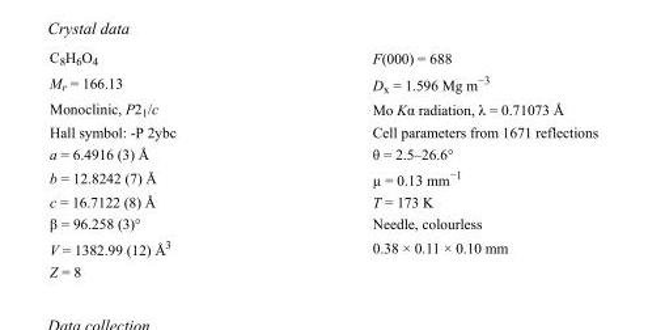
<table><tbody><tr><td>C<sub>8</sub>H<sub>6</sub>O<sub>4</sub></td><td>F(000) = 688</td></tr><tr><td>M<sub>r</sub> = 166.13</td><td>D<sub>x</sub> = 1.596 Mg m<sup>−3</sup></td></tr><tr><td>Monoclinic, P2<sub>1</sub>/c</td><td>Mo Kα radiation, λ = 0.71073 Å</td></tr><tr><td>Hall symbol: -P 2ybc</td><td>Cell parameters from 1671 reflections</td></tr><tr><td>a = 6.4916 (3) Å</td><td>θ = 2.5–26.6°</td></tr><tr><td>b = 12.8242 (7) Å</td><td>µ = 0.13 mm<sup>−1</sup></td></tr><tr><td>c = 16.7122 (8) Å</td><td>T = 173 K</td></tr><tr><td>β = 96.258 (3)°</td><td>Needle, colourless</td></tr><tr><td>V = 1382.99 (12) Å<sup>3</sup></td><td>0.38 × 0.11 × 0.10 mm</td></tr><tr><td>Z = 8</td><td></td></tr></tbody></table>